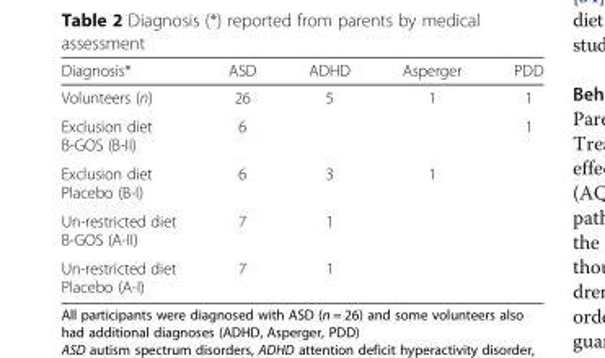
<table><thead><tr><td>Diagnosis*</td><td>ASD</td><td>ADHD</td><td>Asperger</td><td>PDD</td></tr></thead><tbody><tr><td>Volunteers (n)</td><td>26</td><td>5</td><td>1</td><td>1</td></tr><tr><td>Exclusion diet B-GOS (B-II)</td><td>6</td><td></td><td></td><td>1</td></tr><tr><td>Exclusion diet Placebo (B-I)</td><td>6</td><td>3</td><td>1</td><td></td></tr><tr><td>Un-restricted diet B-GOS (A-II)</td><td>7</td><td>1</td><td></td><td></td></tr><tr><td>Un-restricted diet Placebo (A-I)</td><td>7</td><td>1</td><td></td><td></td></tr></tbody></table>